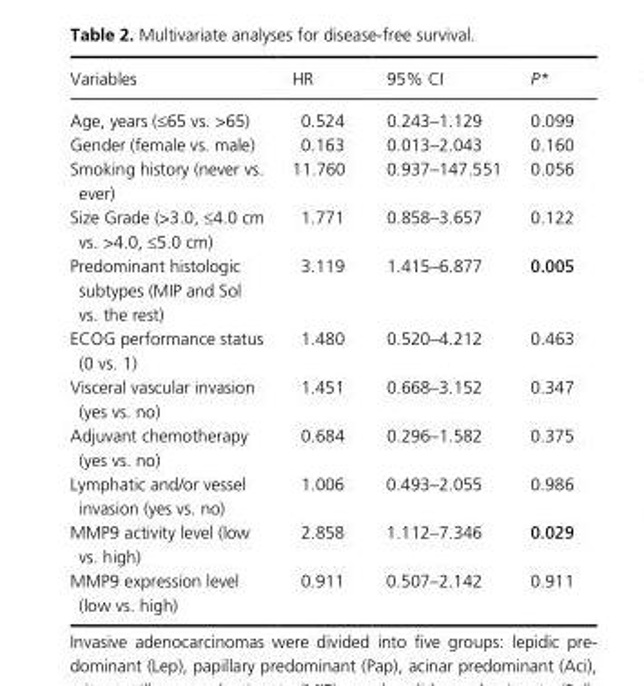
<table><thead><tr><td>Variables</td><td>HR</td><td>95% CI</td><td>P*</td></tr></thead><tbody><tr><td>Age, years (≤65 vs. &gt;65)</td><td>0.524</td><td>0.243–1.129</td><td>0.099</td></tr><tr><td>Gender (female vs. male)</td><td>0.163</td><td>0.013–2.043</td><td>0.160</td></tr><tr><td>Smoking history (never vs. ever)</td><td>11.760</td><td>0.937–147.551</td><td>0.056</td></tr><tr><td>Size Grade (&gt;3.0, ≤4.0 cm vs. &gt;4.0, ≤5.0 cm)</td><td>1.771</td><td>0.858–3.657</td><td>0.122</td></tr><tr><td>Predominant histologic subtypes (MIP and Sol vs. the rest)</td><td>3.119</td><td>1.415–6.877</td><td>0.005</td></tr><tr><td>ECOG performance status (0 vs. 1)</td><td>1.480</td><td>0.520–4.212</td><td>0.463</td></tr><tr><td>Visceral vascular invasion (yes vs. no)</td><td>1.451</td><td>0.668–3.152</td><td>0.347</td></tr><tr><td>Adjuvant chemotherapy (yes vs. no)</td><td>0.684</td><td>0.296–1.582</td><td>0.375</td></tr><tr><td>Lymphatic and/or vessel invasion (yes vs. no)</td><td>1.006</td><td>0.493–2.055</td><td>0.986</td></tr><tr><td>MMP9 activity level (low vs. high)</td><td>2.858</td><td>1.112–7.346</td><td>0.029</td></tr><tr><td>MMP9 expression level (low vs. high)</td><td>0.911</td><td>0.507–2.142</td><td>0.911</td></tr></tbody></table>